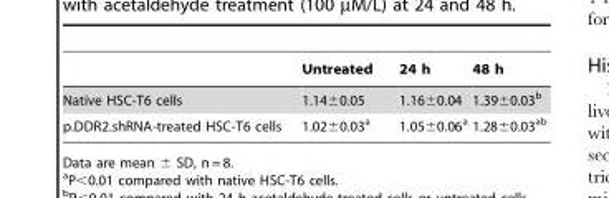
<table><thead><tr><td></td><td>Untreated</td><td>24 h</td><td>48 h</td></tr></thead><tbody><tr><td>Native HSC-T6 cells</td><td>1.14±0.05</td><td>1.16±0.04</td><td>1.39±0.03<sup>b</sup></td></tr><tr><td>p.DDR2.shRNA-treated HSC-T6 cells</td><td>1.02±0.03<sup>a</sup></td><td>1.05±0.06<sup>a</sup></td><td>1.28±0.03<sup>ab</sup></td></tr></tbody></table>